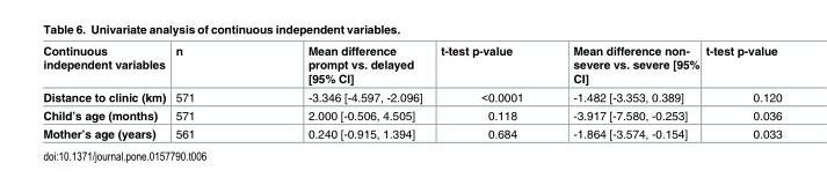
<table><thead><tr><td>Continuous independent variables</td><td>n</td><td>Mean difference prompt vs. delayed [95% CI]</td><td>t-test p-value</td><td>Mean difference non- severe vs. severe [95% CI]</td><td>t-test p-value</td></tr></thead><tbody><tr><td>Distance to clinic (km)</td><td>571</td><td>-3.346 [-4.597, -2.096]</td><td>&lt;0.0001</td><td>-1.482 [-3.353, 0.389]</td><td>0.120</td></tr><tr><td>Child’s age (months)</td><td>571</td><td>2.000 [-0.506, 4.505]</td><td>0.118</td><td>-3.917 [-7.580, -0.253]</td><td>0.036</td></tr><tr><td>Mother’s age (years)</td><td>561</td><td>0.240 [-0.915, 1.394]</td><td>0.684</td><td>-1.864 [-3.574, -0.154]</td><td>0.033</td></tr></tbody></table>